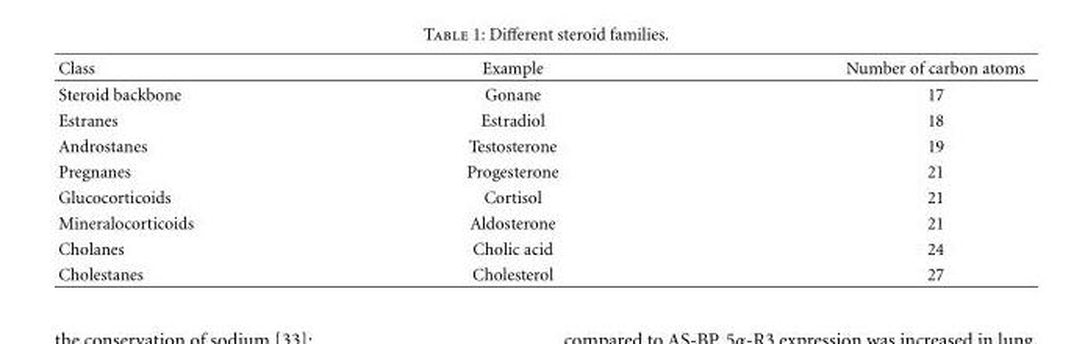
<table><thead><tr><td>Class</td><td>Example</td><td>Number of carbon atoms</td></tr></thead><tbody><tr><td>Steroid backbone</td><td>Gonane</td><td>17</td></tr><tr><td>Estranes</td><td>Estradiol</td><td>18</td></tr><tr><td>Androstanes</td><td>Testosterone</td><td>19</td></tr><tr><td>Pregnanes</td><td>Progesterone</td><td>21</td></tr><tr><td>Glucocorticoids</td><td>Cortisol</td><td>21</td></tr><tr><td>Mineralocorticoids</td><td>Aldosterone</td><td>21</td></tr><tr><td>Cholanes</td><td>Cholic acid</td><td>24</td></tr><tr><td>Cholestanes</td><td>Cholesterol</td><td>27</td></tr></tbody></table>